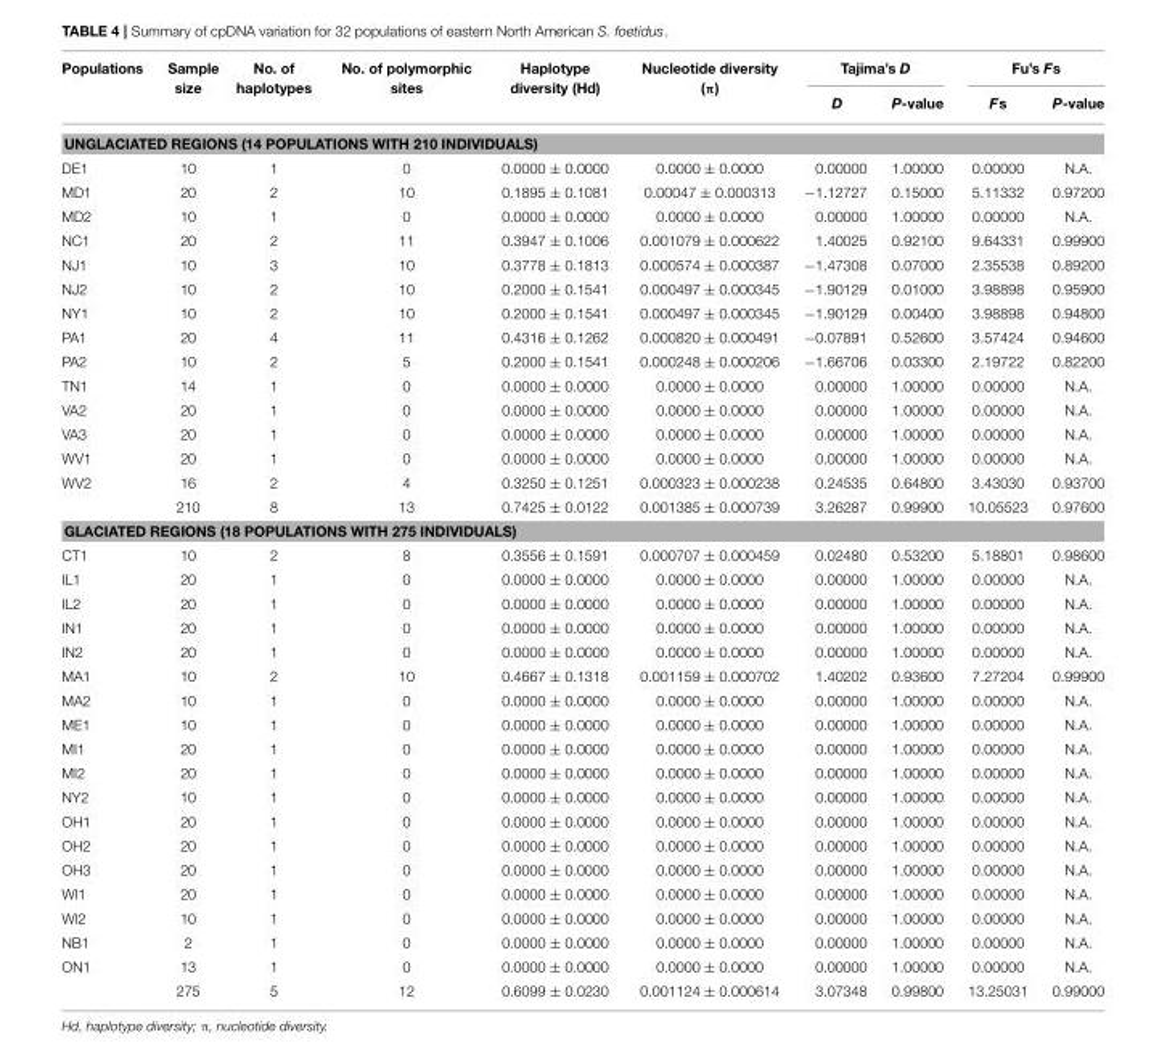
<table><thead><tr><td rowspan="2">Populations</td><td rowspan="2">Sample size</td><td rowspan="2">No. of haplotypes</td><td rowspan="2">No. of polymorphic sites</td><td rowspan="2">Haplotype diversity (Hd)</td><td rowspan="2">Nucleotide diversity (π)</td><td colspan="2">Tajima’s D</td><td colspan="2">Fu’s Fs</td></tr><tr><td>D</td><td>P-value</td><td>Fs</td><td>P-value</td></tr></thead><tbody><tr><td colspan="10">UNGLACIATED REGIONS (14 POPULATIONS WITH 210 INDIVIDUALS)</td></tr><tr><td>DE1</td><td>10</td><td>1</td><td>0</td><td>0.0000 ± 0.0000</td><td>0.0000 ± 0.0000</td><td>0.00000</td><td>1.00000</td><td>0.00000</td><td>N.A.</td></tr><tr><td>MD1</td><td>20</td><td>2</td><td>10</td><td>0.1895 ± 0.1081</td><td>0.00047 ± 0.000313</td><td>−1.12727</td><td>0.15000</td><td>5.11332</td><td>0.97200</td></tr><tr><td>MD2</td><td>10</td><td>1</td><td>0</td><td>0.0000 ± 0.0000</td><td>0.0000 ± 0.0000</td><td>0.00000</td><td>1.00000</td><td>0.00000</td><td>N.A.</td></tr><tr><td>NC1</td><td>20</td><td>2</td><td>11</td><td>0.3947 ± 0.1006</td><td>0.001079 ± 0.000622</td><td>1.40025</td><td>0.92100</td><td>9.64331</td><td>0.99900</td></tr><tr><td>NJ1</td><td>10</td><td>3</td><td>10</td><td>0.3778 ± 0.1813</td><td>0.000574 ± 0.000387</td><td>−1.47308</td><td>0.07000</td><td>2.35538</td><td>0.89200</td></tr><tr><td>NJ2</td><td>10</td><td>2</td><td>10</td><td>0.2000 ± 0.1541</td><td>0.000497 ± 0.000345</td><td>−1.90129</td><td>0.01000</td><td>3.98898</td><td>0.95900</td></tr><tr><td>NY1</td><td>10</td><td>2</td><td>10</td><td>0.2000 ± 0.1541</td><td>0.000497 ± 0.000345</td><td>−1.90129</td><td>0.00400</td><td>3.98898</td><td>0.94800</td></tr><tr><td>PA1</td><td>20</td><td>4</td><td>11</td><td>0.4316 ± 0.1262</td><td>0.000820 ± 0.000491</td><td>−0.07891</td><td>0.52600</td><td>3.57424</td><td>0.94600</td></tr><tr><td>PA2</td><td>10</td><td>2</td><td>5</td><td>0.2000 ± 0.1541</td><td>0.000248 ± 0.000206</td><td>−1.66706</td><td>0.03300</td><td>2.19722</td><td>0.82200</td></tr><tr><td>TN1</td><td>14</td><td>1</td><td>0</td><td>0.0000 ± 0.0000</td><td>0.0000 ± 0.0000</td><td>0.00000</td><td>1.00000</td><td>0.00000</td><td>N.A.</td></tr><tr><td>VA2</td><td>20</td><td>1</td><td>0</td><td>0.0000 ± 0.0000</td><td>0.0000 ± 0.0000</td><td>0.00000</td><td>1.00000</td><td>0.00000</td><td>N.A.</td></tr><tr><td>VA3</td><td>20</td><td>1</td><td>0</td><td>0.0000 ± 0.0000</td><td>0.0000 ± 0.0000</td><td>0.00000</td><td>1.00000</td><td>0.00000</td><td>N.A.</td></tr><tr><td>WV1</td><td>20</td><td>1</td><td>0</td><td>0.0000 ± 0.0000</td><td>0.0000 ± 0.0000</td><td>0.00000</td><td>1.00000</td><td>0.00000</td><td>N.A.</td></tr><tr><td rowspan="2">WV2</td><td>16</td><td>2</td><td>4</td><td>0.3250 ± 0.1251</td><td>0.000323 ± 0.000238</td><td>0.24535</td><td>0.64800</td><td>3.43030</td><td>0.93700</td></tr><tr><td>210</td><td>8</td><td>13</td><td>0.7425 ± 0.0122</td><td>0.001385 ± 0.000739</td><td>3.26287</td><td>0.99900</td><td>10.05523</td><td>0.97600</td></tr><tr><td colspan="10">GLACIATED REGIONS (18 POPULATIONS WITH 275 INDIVIDUALS)</td></tr><tr><td>CT1</td><td>10</td><td>2</td><td>8</td><td>0.3556 ± 0.1591</td><td>0.000707 ± 0.000459</td><td>0.02480</td><td>0.53200</td><td>5.18801</td><td>0.98600</td></tr><tr><td>IL1</td><td>20</td><td>1</td><td>0</td><td>0.0000 ± 0.0000</td><td>0.0000 ± 0.0000</td><td>0.00000</td><td>1.00000</td><td>0.00000</td><td>N.A.</td></tr><tr><td>IL2</td><td>20</td><td>1</td><td>0</td><td>0.0000 ± 0.0000</td><td>0.0000 ± 0.0000</td><td>0.00000</td><td>1.00000</td><td>0.00000</td><td>N.A.</td></tr><tr><td>IN1</td><td>20</td><td>1</td><td>0</td><td>0.0000 ± 0.0000</td><td>0.0000 ± 0.0000</td><td>0.00000</td><td>1.00000</td><td>0.00000</td><td>N.A.</td></tr><tr><td>IN2</td><td>20</td><td>1</td><td>0</td><td>0.0000 ± 0.0000</td><td>0.0000 ± 0.0000</td><td>0.00000</td><td>1.00000</td><td>0.00000</td><td>N.A.</td></tr><tr><td>MA1</td><td>10</td><td>2</td><td>10</td><td>0.4667 ± 0.1318</td><td>0.001159 ± 0.000702</td><td>1.40202</td><td>0.93600</td><td>7.27204</td><td>0.99900</td></tr><tr><td>MA2</td><td>10</td><td>1</td><td>0</td><td>0.0000 ± 0.0000</td><td>0.0000 ± 0.0000</td><td>0.00000</td><td>1.00000</td><td>0.00000</td><td>N.A.</td></tr><tr><td>ME1</td><td>10</td><td>1</td><td>0</td><td>0.0000 ± 0.0000</td><td>0.0000 ± 0.0000</td><td>0.00000</td><td>1.00000</td><td>0.00000</td><td>N.A.</td></tr><tr><td>MI1</td><td>20</td><td>1</td><td>0</td><td>0.0000 ± 0.0000</td><td>0.0000 ± 0.0000</td><td>0.00000</td><td>1.00000</td><td>0.00000</td><td>N.A.</td></tr><tr><td>MI2</td><td>20</td><td>1</td><td>0</td><td>0.0000 ± 0.0000</td><td>0.0000 ± 0.0000</td><td>0.00000</td><td>1.00000</td><td>0.00000</td><td>N.A.</td></tr><tr><td>NY2</td><td>10</td><td>1</td><td>0</td><td>0.0000 ± 0.0000</td><td>0.0000 ± 0.0000</td><td>0.00000</td><td>1.00000</td><td>0.00000</td><td>N.A.</td></tr><tr><td>OH1</td><td>20</td><td>1</td><td>0</td><td>0.0000 ± 0.0000</td><td>0.0000 ± 0.0000</td><td>0.00000</td><td>1.00000</td><td>0.00000</td><td>N.A.</td></tr><tr><td>OH2</td><td>20</td><td>1</td><td>0</td><td>0.0000 ± 0.0000</td><td>0.0000 ± 0.0000</td><td>0.00000</td><td>1.00000</td><td>0.00000</td><td>N.A.</td></tr><tr><td>OH3</td><td>20</td><td>1</td><td>0</td><td>0.0000 ± 0.0000</td><td>0.0000 ± 0.0000</td><td>0.00000</td><td>1.00000</td><td>0.00000</td><td>N.A.</td></tr><tr><td>WI1</td><td>20</td><td>1</td><td>0</td><td>0.0000 ± 0.0000</td><td>0.0000 ± 0.0000</td><td>0.00000</td><td>1.00000</td><td>0.00000</td><td>N.A.</td></tr><tr><td>WI2</td><td>10</td><td>1</td><td>0</td><td>0.0000 ± 0.0000</td><td>0.0000 ± 0.0000</td><td>0.00000</td><td>1.00000</td><td>0.00000</td><td>N.A.</td></tr><tr><td>NB1</td><td>2</td><td>1</td><td>0</td><td>0.0000 ± 0.0000</td><td>0.0000 ± 0.0000</td><td>0.00000</td><td>1.00000</td><td>0.00000</td><td>N.A.</td></tr><tr><td rowspan="2">ON1</td><td>13</td><td>1</td><td>0</td><td>0.0000 ± 0.0000</td><td>0.0000 ± 0.0000</td><td>0.00000</td><td>1.00000</td><td>0.00000</td><td>N.A.</td></tr><tr><td>275</td><td>5</td><td>12</td><td>0.6099 ± 0.0230</td><td>0.001124 ± 0.000614</td><td>3.07348</td><td>0.99800</td><td>13.25031</td><td>0.99000</td></tr></tbody></table>